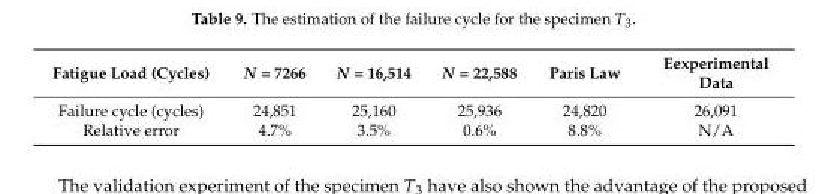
<table><thead><tr><td>Fatigue Load (Cycles)</td><td>N = 7266</td><td>N = 16,514</td><td>N = 22,588</td><td>Paris Law</td><td>Eexperimental Data</td></tr></thead><tbody><tr><td>Failure cycle (cycles)</td><td>24,851</td><td>25,160</td><td>25,936</td><td>24,820</td><td>26,091</td></tr><tr><td>Relative error</td><td>4.7%</td><td>3.5%</td><td>0.6%</td><td>8.8%</td><td>N/A</td></tr></tbody></table>